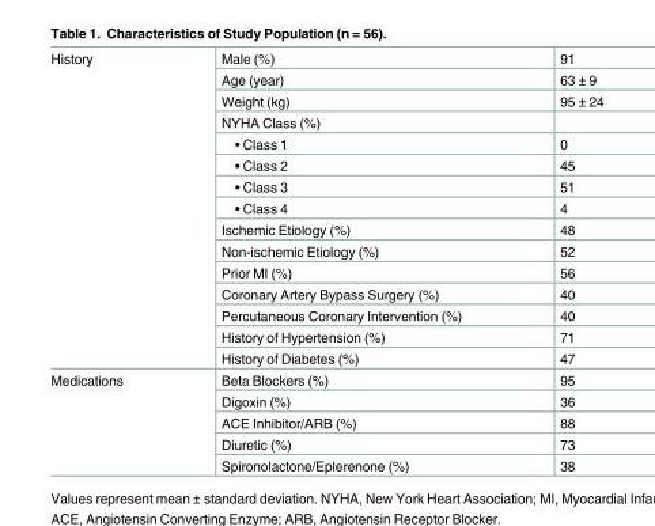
<table><tbody><tr><td rowspan="15">History</td><td>Male (%)</td><td>91</td></tr><tr><td>Age (year)</td><td>63 ± 9</td></tr><tr><td>Weight (kg)</td><td>95 ± 24</td></tr><tr><td>NYHA Class (%)</td><td></td></tr><tr><td>• Class 1</td><td>0</td></tr><tr><td>• Class 2</td><td>45</td></tr><tr><td>• Class 3</td><td>51</td></tr><tr><td>• Class 4</td><td>4</td></tr><tr><td>Ischemic Etiology (%)</td><td>48</td></tr><tr><td>Non-ischemic Etiology (%)</td><td>52</td></tr><tr><td>Prior MI (%)</td><td>56</td></tr><tr><td>Coronary Artery Bypass Surgery (%)</td><td>40</td></tr><tr><td>Percutaneous Coronary Intervention (%)</td><td>40</td></tr><tr><td>History of Hypertension (%)</td><td>71</td></tr><tr><td>History of Diabetes (%)</td><td>47</td></tr><tr><td rowspan="5">Medications</td><td>Beta Blockers (%)</td><td>95</td></tr><tr><td>Digoxin (%)</td><td>36</td></tr><tr><td>ACE Inhibitor/ARB (%)</td><td>88</td></tr><tr><td>Diuretic (%)</td><td>73</td></tr><tr><td>Spironolactone/Eplerenone (%)</td><td>38</td></tr></tbody></table>